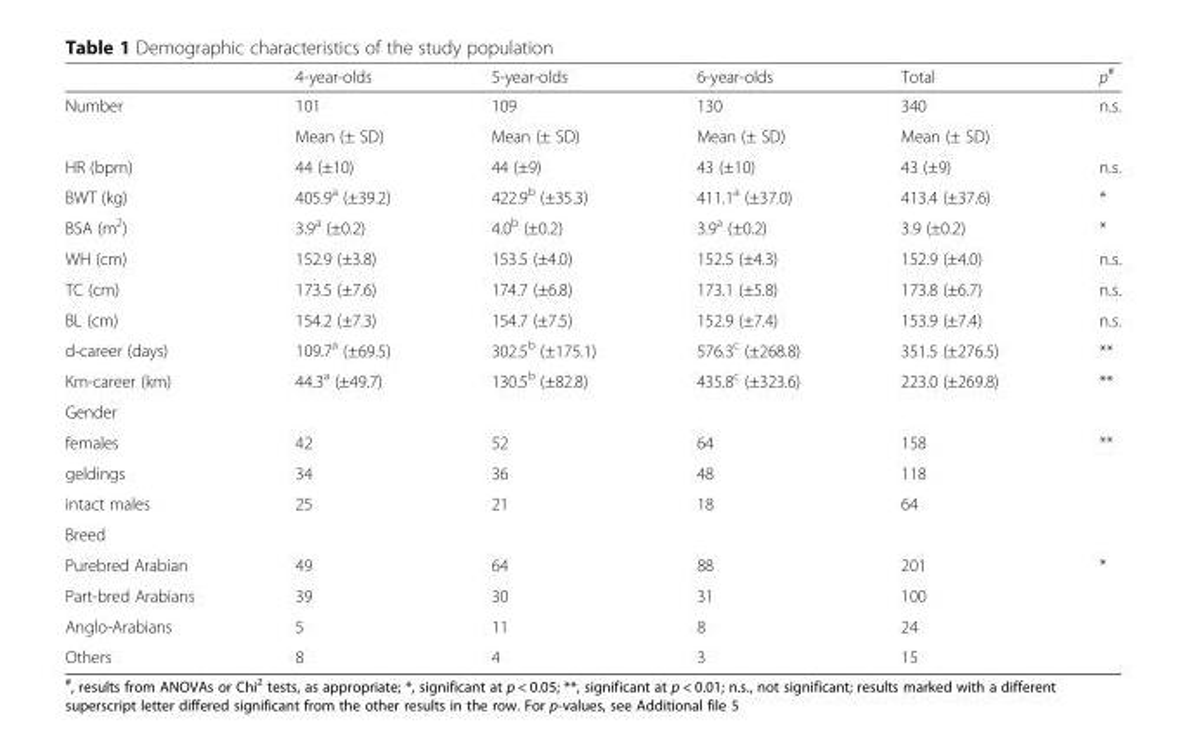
<table><thead><tr><td></td><td>4-year-olds</td><td>5-year-olds</td><td>6-year-olds</td><td>Total</td><td>p<sup>#</sup></td></tr></thead><tbody><tr><td rowspan="2">Number</td><td>101</td><td>109</td><td>130</td><td>340</td><td>n.s.</td></tr><tr><td>Mean (± SD)</td><td>Mean (± SD)</td><td>Mean (± SD)</td><td>Mean (± SD)</td><td></td></tr><tr><td>HR (bpm)</td><td>44 (±10)</td><td>44 (±9)</td><td>43 (±10)</td><td>43 (±9)</td><td>n.s.</td></tr><tr><td>BWT (kg)</td><td>405.9<sup>a</sup> (±39.2)</td><td>422.9<sup>b</sup> (±35.3)</td><td>411.1<sup>a</sup> (±37.0)</td><td>413.4 (±37.6)</td><td>*</td></tr><tr><td>BSA (m<sup>2</sup>)</td><td>3.9<sup>a</sup> (±0.2)</td><td>4.0<sup>b</sup> (±0.2)</td><td>3.9<sup>a</sup> (±0.2)</td><td>3.9 (±0.2)</td><td>*</td></tr><tr><td>WH (cm)</td><td>152.9 (±3.8)</td><td>153.5 (±4.0)</td><td>152.5 (±4.3)</td><td>152.9 (±4.0)</td><td>n.s.</td></tr><tr><td>TC (cm)</td><td>173.5 (±7.6)</td><td>174.7 (±6.8)</td><td>173.1 (±5.8)</td><td>173.8 (±6.7)</td><td>n.s.</td></tr><tr><td>BL (cm)</td><td>154.2 (±7.3)</td><td>154.7 (±7.5)</td><td>152.9 (±7.4)</td><td>153.9 (±7.4)</td><td>n.s.</td></tr><tr><td>d-career (days)</td><td>109.7<sup>a</sup> (±69.5)</td><td>302.5<sup>b</sup> (±175.1)</td><td>576.3<sup>c</sup> (±268.8)</td><td>351.5 (±276.5)</td><td>**</td></tr><tr><td>Km-career (km)</td><td>44.3<sup>a</sup> (±49.7)</td><td>130.5<sup>b</sup> (±82.8)</td><td>435.8<sup>c</sup> (±323.6)</td><td>223.0 (±269.8)</td><td>**</td></tr><tr><td colspan="6">Gender</td></tr><tr><td>females</td><td>42</td><td>52</td><td>64</td><td>158</td><td rowspan="3">**</td></tr><tr><td>geldings</td><td>34</td><td>36</td><td>48</td><td>118</td></tr><tr><td>intact males</td><td>25</td><td>21</td><td>18</td><td>64</td></tr><tr><td colspan="6">Breed</td></tr><tr><td>Purebred Arabian</td><td>49</td><td>64</td><td>88</td><td>201</td><td rowspan="4">*</td></tr><tr><td>Part-bred Arabians</td><td>39</td><td>30</td><td>31</td><td>100</td></tr><tr><td>Anglo-Arabians</td><td>5</td><td>11</td><td>8</td><td>24</td></tr><tr><td>Others</td><td>8</td><td>4</td><td>3</td><td>15</td></tr></tbody></table>